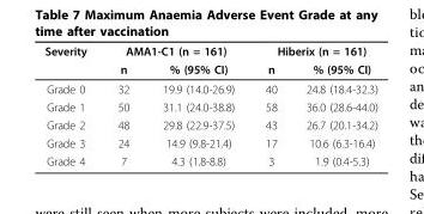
<table><thead><tr><td rowspan="2">Severity</td><td colspan="2">AMA1-C1 (n = 161)</td><td colspan="2">Hiberix (n = 161)</td></tr><tr><td>n</td><td>% (95% CI)</td><td>n</td><td>% (95% CI)</td></tr></thead><tbody><tr><td>Grade 0</td><td>32</td><td>19.9 (14.0-26.9)</td><td>40</td><td>24.8 (18.4-32.3)</td></tr><tr><td>Grade 1</td><td>50</td><td>31.1 (24.0-38.8)</td><td>58</td><td>36.0 (28.6-44.0)</td></tr><tr><td>Grade 2</td><td>48</td><td>29.8 (22.9-37.5)</td><td>43</td><td>26.7 (20.1-34.2)</td></tr><tr><td>Grade 3</td><td>24</td><td>14.9 (9.8-21.4)</td><td>17</td><td>10.6 (6.3-16.4)</td></tr><tr><td>Grade 4</td><td>7</td><td>4.3 (1.8-8.8)</td><td>3</td><td>1.9 (0.4-5.3)</td></tr></tbody></table>